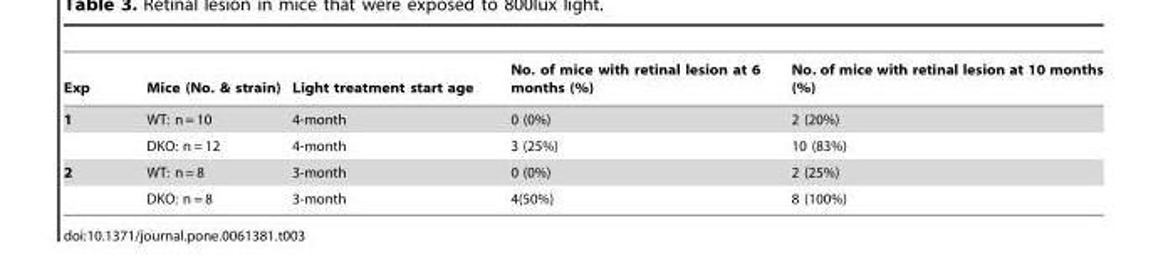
<table><thead><tr><td>Exp</td><td>Mice (No. &amp; strain)</td><td>Light treatment start age</td><td>No. of mice with retinal lesion at 6 months (%)</td><td>No. of mice with retinal lesion at 10 months (%)</td></tr></thead><tbody><tr><td rowspan="2">1</td><td>WT: n = 10</td><td>4-month</td><td>0 (0%)</td><td>2 (20%)</td></tr><tr><td>DKO: n = 12</td><td>4-month</td><td>3 (25%)</td><td>10 (83%)</td></tr><tr><td rowspan="2">2</td><td>WT: n = 8</td><td>3-month</td><td>0 (0%)</td><td>2 (25%)</td></tr><tr><td>DKO: n = 8</td><td>3-month</td><td>4(50%)</td><td>8 (100%)</td></tr></tbody></table>